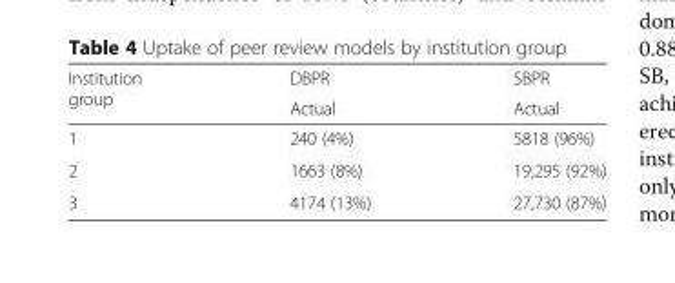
<table><thead><tr><td rowspan="2">Institution group</td><td rowspan="2">DBPR Actual</td><td rowspan="2">SBPR Actual</td></tr><tr></tr></thead><tbody><tr><td>1</td><td>240 (4%)</td><td>5818 (96%)</td></tr><tr><td>2</td><td>1663 (8%)</td><td>19,295 (92%)</td></tr><tr><td>3</td><td>4174 (13%)</td><td>27,730 (87%)</td></tr></tbody></table>